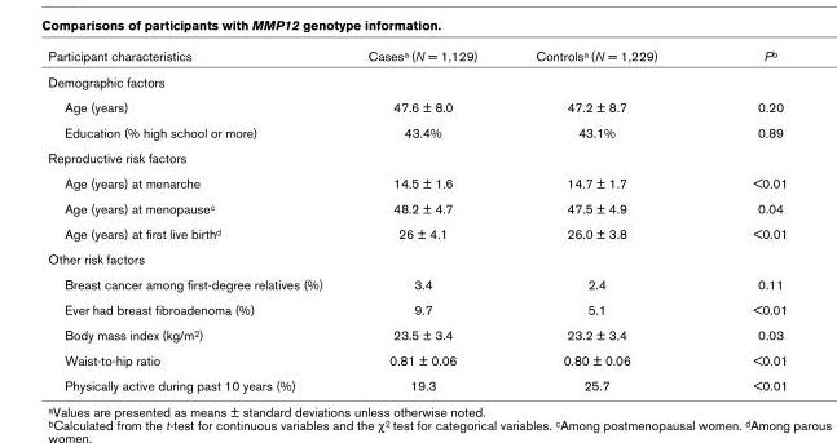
<table><thead><tr><td>Participant characteristics</td><td>Casesa (N = 1,129)</td><td>Controlsa (N = 1,229)</td><td>Pb</td></tr></thead><tbody><tr><td colspan="4">Demographic factors</td></tr><tr><td>Age (years)</td><td>47.6 ± 8.0</td><td>47.2 ± 8.7</td><td>0.20</td></tr><tr><td>Education (% high school or more)</td><td>43.4%</td><td>43.1%</td><td>0.89</td></tr><tr><td colspan="4">Reproductive risk factors</td></tr><tr><td>Age (years) at menarche</td><td>14.5 ± 1.6</td><td>14.7 ± 1.7</td><td>&lt;0.01</td></tr><tr><td>Age (years) at menopausec</td><td>48.2 ± 4.7</td><td>47.5 ± 4.9</td><td>0.04</td></tr><tr><td>Age (years) at first live birthd</td><td>26 ± 4.1</td><td>26.0 ± 3.8</td><td>&lt;0.01</td></tr><tr><td colspan="4">Other risk factors</td></tr><tr><td>Breast cancer among first-degree relatives (%)</td><td>3.4</td><td>2.4</td><td>0.11</td></tr><tr><td>Ever had breast fibroadenoma (%)</td><td>9.7</td><td>5.1</td><td>&lt;0.01</td></tr><tr><td>Body mass index (kg/m2)</td><td>23.5 ± 3.4</td><td>23.2 ± 3.4</td><td>0.03</td></tr><tr><td>Waist-to-hip ratio</td><td>0.81 ± 0.06</td><td>0.80 ± 0.06</td><td>&lt;0.01</td></tr><tr><td>Physically active during past 10 years (%)</td><td>19.3</td><td>25.7</td><td>&lt;0.01</td></tr></tbody></table>